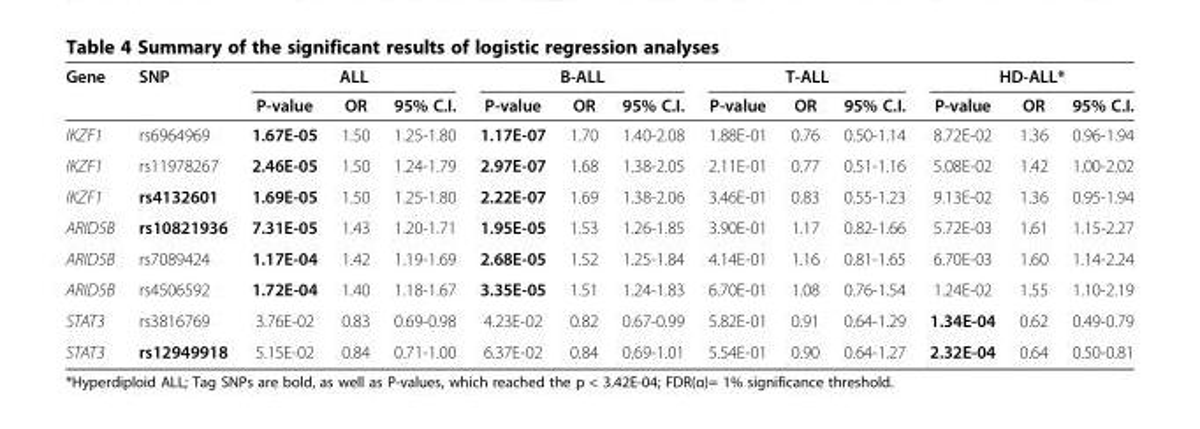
<table><thead><tr><td rowspan="2">Gene</td><td rowspan="2">SNP</td><td colspan="3">ALL</td><td colspan="3">B-ALL</td><td colspan="3">T-ALL</td><td colspan="3">HD-ALL*</td></tr><tr><td>P-value</td><td>OR</td><td>95% C.I.</td><td>P-value</td><td>OR</td><td>95% C.I.</td><td>P-value</td><td>OR</td><td>95% C.I.</td><td>P-value</td><td>OR</td><td>95% C.I.</td></tr></thead><tbody><tr><td>IKZF1</td><td>rs6964969</td><td>1.67E-05</td><td>1.50</td><td>1.25-1.80</td><td>1.17E-07</td><td>1.70</td><td>1.40-2.08</td><td>1.88E-01</td><td>0.76</td><td>0.50-1.14</td><td>8.72E-02</td><td>1.36</td><td>0.96-1.94</td></tr><tr><td>IKZF1</td><td>rs11978267</td><td>2.46E-05</td><td>1.50</td><td>1.24-1.79</td><td>2.97E-07</td><td>1.68</td><td>1.38-2.05</td><td>2.11E-01</td><td>0.77</td><td>0.51-1.16</td><td>5.08E-02</td><td>1.42</td><td>1.00-2.02</td></tr><tr><td>IKZF1</td><td>rs4132601</td><td>1.69E-05</td><td>1.50</td><td>1.25-1.80</td><td>2.22E-07</td><td>1.69</td><td>1.38-2.06</td><td>3.46E-01</td><td>0.83</td><td>0.55-1.23</td><td>9.13E-02</td><td>1.36</td><td>0.95-1.94</td></tr><tr><td>ARID5B</td><td>rs10821936</td><td>7.31E-05</td><td>1.43</td><td>1.20-1.71</td><td>1.95E-05</td><td>1.53</td><td>1.26-1.85</td><td>3.90E-01</td><td>1.17</td><td>0.82-1.66</td><td>5.72E-03</td><td>1.61</td><td>1.15-2.27</td></tr><tr><td>ARID5B</td><td>rs7089424</td><td>1.17E-04</td><td>1.42</td><td>1.19-1.69</td><td>2.68E-05</td><td>1.52</td><td>1.25-1.84</td><td>4.14E-01</td><td>1.16</td><td>0.81-1.65</td><td>6.70E-03</td><td>1.60</td><td>1.14-2.24</td></tr><tr><td>ARID5B</td><td>rs4506592</td><td>1.72E-04</td><td>1.40</td><td>1.18-1.67</td><td>3.35E-05</td><td>1.51</td><td>1.24-1.83</td><td>6.70E-01</td><td>1.08</td><td>0.76-1.54</td><td>1.24E-02</td><td>1.55</td><td>1.10-2.19</td></tr><tr><td>STAT3</td><td>rs3816769</td><td>3.76E-02</td><td>0.83</td><td>0.69-0.98</td><td>4.23E-02</td><td>0.82</td><td>0.67-0.99</td><td>5.82E-01</td><td>0.91</td><td>0.64-1.29</td><td>1.34E-04</td><td>0.62</td><td>0.49-0.79</td></tr><tr><td>STAT3</td><td>rs12949918</td><td>5.15E-02</td><td>0.84</td><td>0.71-1.00</td><td>6.37E-02</td><td>0.84</td><td>0.69-1.01</td><td>5.54E-01</td><td>0.90</td><td>0.64-1.27</td><td>2.32E-04</td><td>0.64</td><td>0.50-0.81</td></tr></tbody></table>